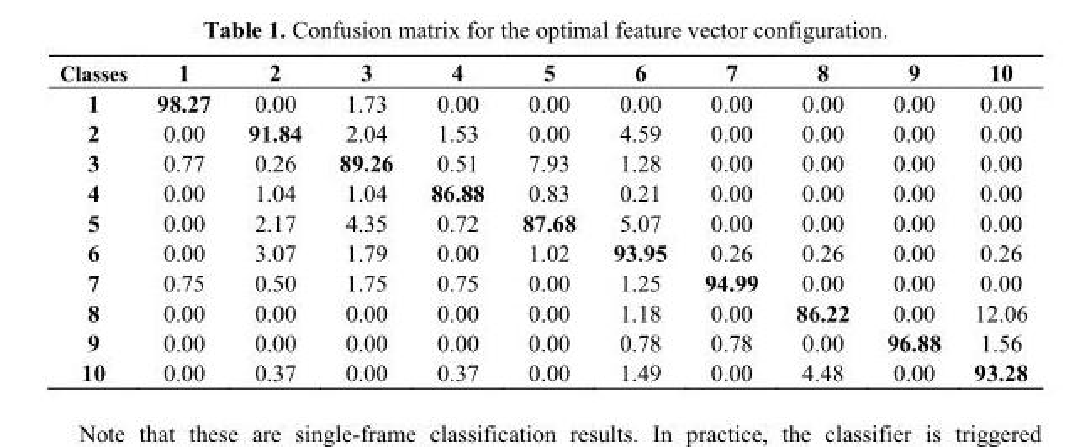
<table><thead><tr><td>Classes</td><td>1</td><td>2</td><td>3</td><td>4</td><td>5</td><td>6</td><td>7</td><td>8</td><td>9</td><td>10</td></tr></thead><tbody><tr><td>1</td><td>98.27</td><td>0.00</td><td>1.73</td><td>0.00</td><td>0.00</td><td>0.00</td><td>0.00</td><td>0.00</td><td>0.00</td><td>0.00</td></tr><tr><td>2</td><td>0.00</td><td>91.84</td><td>2.04</td><td>1.53</td><td>0.00</td><td>4.59</td><td>0.00</td><td>0.00</td><td>0.00</td><td>0.00</td></tr><tr><td>3</td><td>0.77</td><td>0.26</td><td>89.26</td><td>0.51</td><td>7.93</td><td>1.28</td><td>0.00</td><td>0.00</td><td>0.00</td><td>0.00</td></tr><tr><td>4</td><td>0.00</td><td>1.04</td><td>1.04</td><td>86.88</td><td>0.83</td><td>0.21</td><td>0.00</td><td>0.00</td><td>0.00</td><td>0.00</td></tr><tr><td>5</td><td>0.00</td><td>2.17</td><td>4.35</td><td>0.72</td><td>87.68</td><td>5.07</td><td>0.00</td><td>0.00</td><td>0.00</td><td>0.00</td></tr><tr><td>6</td><td>0.00</td><td>3.07</td><td>1.79</td><td>0.00</td><td>1.02</td><td>93.95</td><td>0.26</td><td>0.26</td><td>0.00</td><td>0.26</td></tr><tr><td>7</td><td>0.75</td><td>0.50</td><td>1.75</td><td>0.75</td><td>0.00</td><td>1.25</td><td>94.99</td><td>0.00</td><td>0.00</td><td>0.00</td></tr><tr><td>8</td><td>0.00</td><td>0.00</td><td>0.00</td><td>0.00</td><td>0.00</td><td>1.18</td><td>0.00</td><td>86.22</td><td>0.00</td><td>12.06</td></tr><tr><td>9</td><td>0.00</td><td>0.00</td><td>0.00</td><td>0.00</td><td>0.00</td><td>0.78</td><td>0.78</td><td>0.00</td><td>96.88</td><td>1.56</td></tr><tr><td>10</td><td>0.00</td><td>0.37</td><td>0.00</td><td>0.37</td><td>0.00</td><td>1.49</td><td>0.00</td><td>4.48</td><td>0.00</td><td>93.28</td></tr></tbody></table>